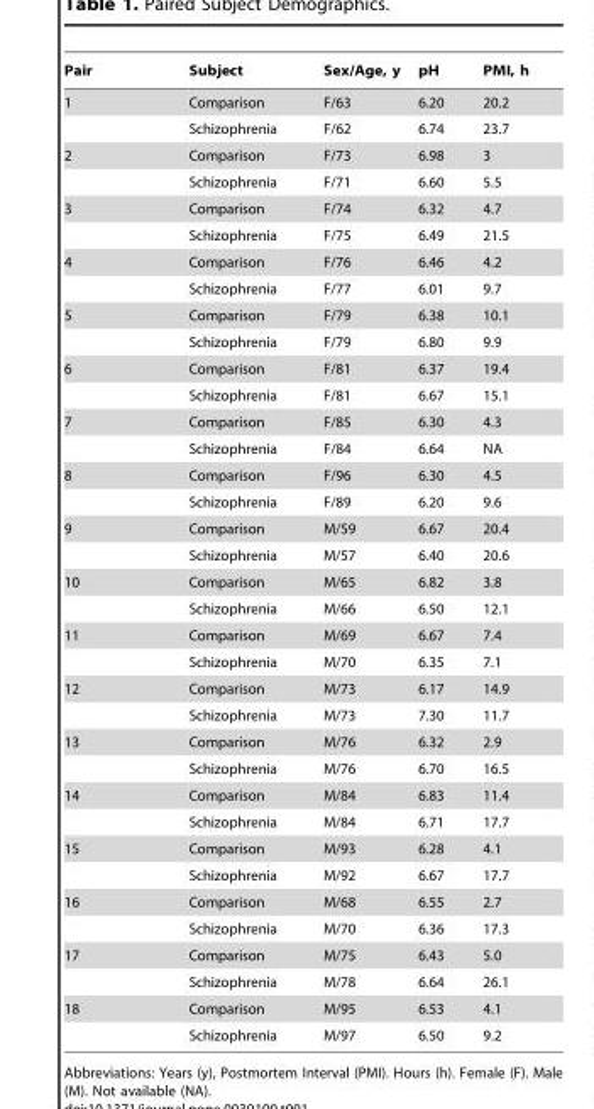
<table><thead><tr><td>Pair</td><td>Subject</td><td>Sex/Age, y</td><td>pH</td><td>PMI, h</td></tr></thead><tbody><tr><td rowspan="2">1</td><td>Comparison</td><td>F/63</td><td>6.20</td><td>20.2</td></tr><tr><td>Schizophrenia</td><td>F/62</td><td>6.74</td><td>23.7</td></tr><tr><td rowspan="2">2</td><td>Comparison</td><td>F/73</td><td>6.98</td><td>3</td></tr><tr><td>Schizophrenia</td><td>F/71</td><td>6.60</td><td>5.5</td></tr><tr><td rowspan="2">3</td><td>Comparison</td><td>F/74</td><td>6.32</td><td>4.7</td></tr><tr><td>Schizophrenia</td><td>F/75</td><td>6.49</td><td>21.5</td></tr><tr><td rowspan="2">4</td><td>Comparison</td><td>F/76</td><td>6.46</td><td>4.2</td></tr><tr><td>Schizophrenia</td><td>F/77</td><td>6.01</td><td>9.7</td></tr><tr><td rowspan="2">5</td><td>Comparison</td><td>F/79</td><td>6.38</td><td>10.1</td></tr><tr><td>Schizophrenia</td><td>F/79</td><td>6.80</td><td>9.9</td></tr><tr><td rowspan="2">6</td><td>Comparison</td><td>F/81</td><td>6.37</td><td>19.4</td></tr><tr><td>Schizophrenia</td><td>F/81</td><td>6.67</td><td>15.1</td></tr><tr><td rowspan="2">7</td><td>Comparison</td><td>F/85</td><td>6.30</td><td>4.3</td></tr><tr><td>Schizophrenia</td><td>F/84</td><td>6.64</td><td>NA</td></tr><tr><td rowspan="2">8</td><td>Comparison</td><td>F/96</td><td>6.30</td><td>4.5</td></tr><tr><td>Schizophrenia</td><td>F/89</td><td>6.20</td><td>9.6</td></tr><tr><td rowspan="2">9</td><td>Comparison</td><td>M/59</td><td>6.67</td><td>20.4</td></tr><tr><td>Schizophrenia</td><td>M/57</td><td>6.40</td><td>20.6</td></tr><tr><td rowspan="2">10</td><td>Comparison</td><td>M/65</td><td>6.82</td><td>3.8</td></tr><tr><td>Schizophrenia</td><td>M/66</td><td>6.50</td><td>12.1</td></tr><tr><td rowspan="2">11</td><td>Comparison</td><td>M/69</td><td>6.67</td><td>7.4</td></tr><tr><td>Schizophrenia</td><td>M/70</td><td>6.35</td><td>7.1</td></tr><tr><td rowspan="2">12</td><td>Comparison</td><td>M/73</td><td>6.17</td><td>14.9</td></tr><tr><td>Schizophrenia</td><td>M/73</td><td>7.30</td><td>11.7</td></tr><tr><td rowspan="2">13</td><td>Comparison</td><td>M/76</td><td>6.32</td><td>2.9</td></tr><tr><td>Schizophrenia</td><td>M/76</td><td>6.70</td><td>16.5</td></tr><tr><td rowspan="2">14</td><td>Comparison</td><td>M/84</td><td>6.83</td><td>11.4</td></tr><tr><td>Schizophrenia</td><td>M/84</td><td>6.71</td><td>17.7</td></tr><tr><td rowspan="2">15</td><td>Comparison</td><td>M/93</td><td>6.28</td><td>4.1</td></tr><tr><td>Schizophrenia</td><td>M/92</td><td>6.67</td><td>17.7</td></tr><tr><td rowspan="2">16</td><td>Comparison</td><td>M/68</td><td>6.55</td><td>2.7</td></tr><tr><td>Schizophrenia</td><td>M/70</td><td>6.36</td><td>17.3</td></tr><tr><td rowspan="2">17</td><td>Comparison</td><td>M/75</td><td>6.43</td><td>5.0</td></tr><tr><td>Schizophrenia</td><td>M/78</td><td>6.64</td><td>26.1</td></tr><tr><td rowspan="2">18</td><td>Comparison</td><td>M/95</td><td>6.53</td><td>4.1</td></tr><tr><td>Schizophrenia</td><td>M/97</td><td>6.50</td><td>9.2</td></tr></tbody></table>